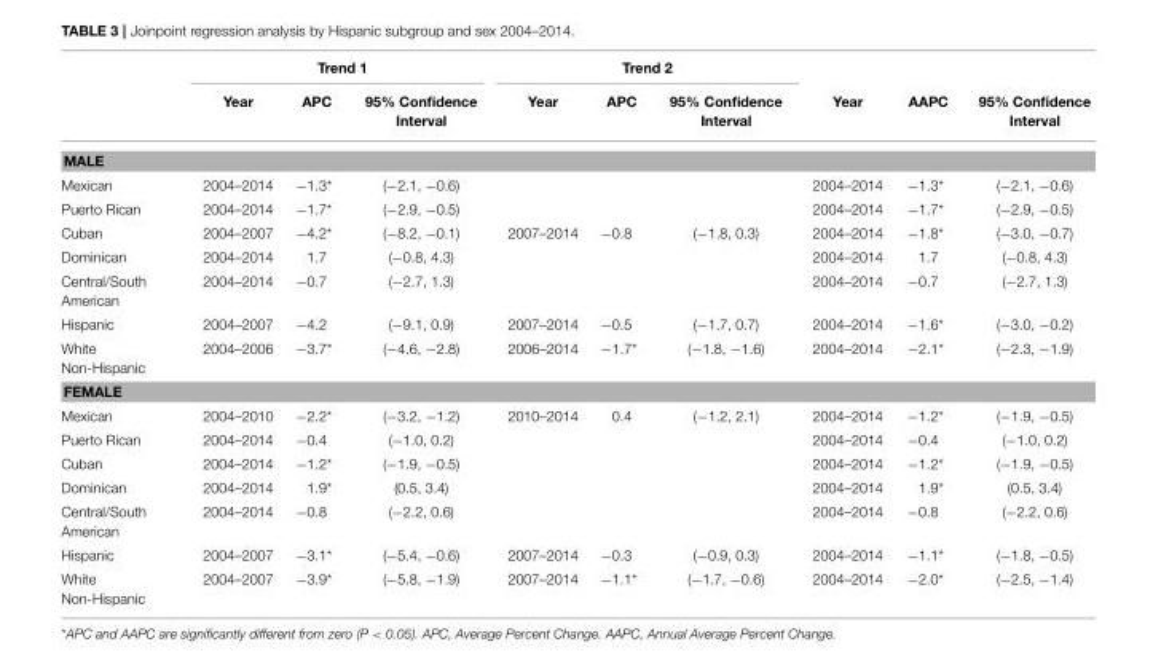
<table><thead><tr><td rowspan="2"></td><td colspan="3">Trend 1</td><td colspan="3">Trend 2</td><td rowspan="2">Year</td><td rowspan="2">AAPC</td><td rowspan="2">95% Confidence Interval</td></tr><tr><td>Year</td><td>APC</td><td>95% Confidence Interval</td><td>Year</td><td>APC</td><td>95% Confidence Interval</td></tr></thead><tbody><tr><td colspan="10">MALE</td></tr><tr><td>Mexican</td><td>2004–2014</td><td>−1.3*</td><td>(−2.1, −0.6)</td><td></td><td></td><td></td><td>2004–2014</td><td>−1.3*</td><td>(−2.1, −0.6)</td></tr><tr><td>Puerto Rican</td><td>2004–2014</td><td>−1.7*</td><td>(−2.9, −0.5)</td><td></td><td></td><td></td><td>2004–2014</td><td>−1.7*</td><td>(−2.9, −0.5)</td></tr><tr><td>Cuban</td><td>2004–2007</td><td>−4.2*</td><td>(−8.2, −0.1)</td><td>2007–2014</td><td>−0.8</td><td>(−1.8, 0.3)</td><td>2004–2014</td><td>−1.8*</td><td>(−3.0, −0.7)</td></tr><tr><td>Dominican</td><td>2004–2014</td><td>1.7</td><td>(−0.8, 4.3)</td><td></td><td></td><td></td><td>2004–2014</td><td>1.7</td><td>(−0.8, 4.3)</td></tr><tr><td>Central/South American</td><td>2004–2014</td><td>−0.7</td><td>(−2.7, 1.3)</td><td></td><td></td><td></td><td>2004–2014</td><td>−0.7</td><td>(−2.7, 1.3)</td></tr><tr><td>Hispanic</td><td>2004–2007</td><td>−4.2</td><td>(−9.1, 0.9)</td><td>2007–2014</td><td>−0.5</td><td>(−1.7, 0.7)</td><td>2004–2014</td><td>−1.6*</td><td>(−3.0, −0.2)</td></tr><tr><td>White Non-Hispanic</td><td>2004–2006</td><td>−3.7*</td><td>(−4.6, −2.8)</td><td>2006–2014</td><td>−1.7*</td><td>(−1.8, −1.6)</td><td>2004–2014</td><td>−2.1*</td><td>(−2.3, −1.9)</td></tr><tr><td colspan="10">FEMALE</td></tr><tr><td>Mexican</td><td>2004–2010</td><td>−2.2*</td><td>(−3.2, −1.2)</td><td>2010–2014</td><td>0.4</td><td>(−1.2, 2.1)</td><td>2004–2014</td><td>−1.2*</td><td>(−1.9, −0.5)</td></tr><tr><td>Puerto Rican</td><td>2004–2014</td><td>−0.4</td><td>(−1.0, 0.2)</td><td></td><td></td><td></td><td>2004–2014</td><td>−0.4</td><td>(−1.0, 0.2)</td></tr><tr><td>Cuban</td><td>2004–2014</td><td>−1.2*</td><td>(−1.9, −0.5)</td><td></td><td></td><td></td><td>2004–2014</td><td>−1.2*</td><td>(−1.9, −0.5)</td></tr><tr><td>Dominican</td><td>2004–2014</td><td>1.9*</td><td>(0.5, 3.4)</td><td></td><td></td><td></td><td>2004–2014</td><td>1.9*</td><td>(0.5, 3.4)</td></tr><tr><td>Central/South American</td><td>2004–2014</td><td>−0.8</td><td>(−2.2, 0.6)</td><td></td><td></td><td></td><td>2004–2014</td><td>−0.8</td><td>(−2.2, 0.6)</td></tr><tr><td>Hispanic</td><td>2004–2007</td><td>−3.1*</td><td>(−5.4, −0.6)</td><td>2007–2014</td><td>−0.3</td><td>(−0.9, 0.3)</td><td>2004–2014</td><td>−1.1*</td><td>(−1.8, −0.5)</td></tr><tr><td>White Non-Hispanic</td><td>2004–2007</td><td>−3.9*</td><td>(−5.8, −1.9)</td><td>2007–2014</td><td>−1.1*</td><td>(−1.7, −0.6)</td><td>2004–2014</td><td>−2.0*</td><td>(−2.5, −1.4)</td></tr></tbody></table>